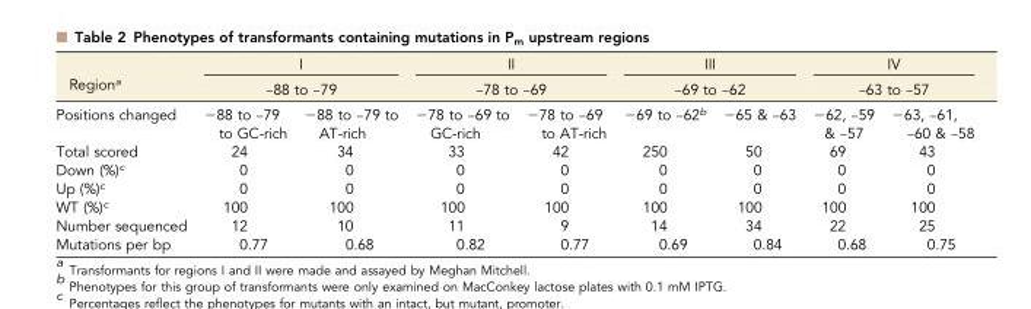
<table><thead><tr><td rowspan="3">Region<sup>a</sup> Positions changed</td><td rowspan="2" colspan="2">I –88 to –79</td><td rowspan="2" colspan="2">II –78 to –69</td><td rowspan="2" colspan="2">III –69 to –62</td><td rowspan="2" colspan="2">IV –63 to –57</td></tr><tr></tr><tr><td>−88 to –79 to GC-rich</td><td>−88 to –79 to AT-rich</td><td>−78 to –69 to GC-rich</td><td>−78 to –69 to AT-rich</td><td>−69 to –62<sup>b</sup></td><td>−65 &amp; –63</td><td>−62, –59 &amp; –57</td><td>−63, –61, –60 &amp; –58</td></tr></thead><tbody><tr><td>Total scored</td><td>24</td><td>34</td><td>33</td><td>42</td><td>250</td><td>50</td><td>69</td><td>43</td></tr><tr><td>Down (%)<sup>c</sup></td><td>0</td><td>0</td><td>0</td><td>0</td><td>0</td><td>0</td><td>0</td><td>0</td></tr><tr><td>Up (%)<sup>c</sup></td><td>0</td><td>0</td><td>0</td><td>0</td><td>0</td><td>0</td><td>0</td><td>0</td></tr><tr><td>WT (%)<sup>c</sup></td><td>100</td><td>100</td><td>100</td><td>100</td><td>100</td><td>100</td><td>100</td><td>100</td></tr><tr><td>Number sequenced</td><td>12</td><td>10</td><td>11</td><td>9</td><td>14</td><td>34</td><td>22</td><td>25</td></tr><tr><td>Mutations per bp</td><td>0.77</td><td>0.68</td><td>0.82</td><td>0.77</td><td>0.69</td><td>0.84</td><td>0.68</td><td>0.75</td></tr></tbody></table>